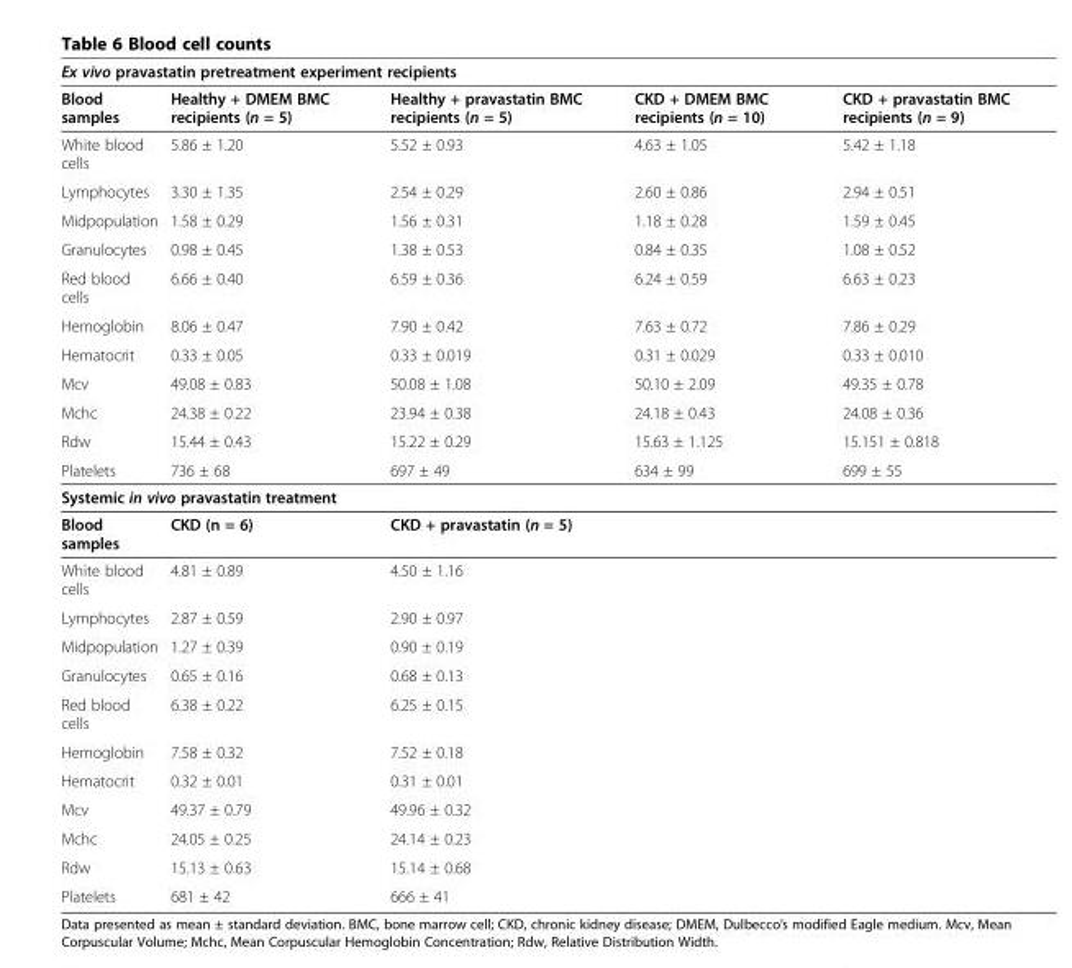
<table><tbody><tr><td colspan="5">Ex vivo pravastatin pretreatment experiment recipients</td></tr><tr><td>Blood samples</td><td>Healthy + DMEM BMC recipients (n = 5)</td><td>Healthy + pravastatin BMC recipients (n = 5)</td><td>CKD + DMEM BMC recipients (n = 10)</td><td>CKD + pravastatin BMC recipients (n = 9)</td></tr><tr><td>White blood cells</td><td>5.86 ± 1.20</td><td>5.52 ± 0.93</td><td>4.63 ± 1.05</td><td>5.42 ± 1.18</td></tr><tr><td>Lymphocytes</td><td>3.30 ± 1.35</td><td>2.54 ± 0.29</td><td>2.60 ± 0.86</td><td>2.94 ± 0.51</td></tr><tr><td>Midpopulation</td><td>1.58 ± 0.29</td><td>1.56 ± 0.31</td><td>1.18 ± 0.28</td><td>1.59 ± 0.45</td></tr><tr><td>Granulocytes</td><td>0.98 ± 0.45</td><td>1.38 ± 0.53</td><td>0.84 ± 0.35</td><td>1.08 ± 0.52</td></tr><tr><td>Red blood cells</td><td>6.66 ± 0.40</td><td>6.59 ± 0.36</td><td>6.24 ± 0.59</td><td>6.63 ± 0.23</td></tr><tr><td>Hemoglobin</td><td>8.06 ± 0.47</td><td>7.90 ± 0.42</td><td>7.63 ± 0.72</td><td>7.86 ± 0.29</td></tr><tr><td>Hematocrit</td><td>0.33 ± 0.05</td><td>0.33 ± 0.019</td><td>0.31 ± 0.029</td><td>0.33 ± 0.010</td></tr><tr><td>Mcv</td><td>49.08 ± 0.83</td><td>50.08 ± 1.08</td><td>50.10 ± 2.09</td><td>49.35 ± 0.78</td></tr><tr><td>Mchc</td><td>24.38 ± 0.22</td><td>23.94 ± 0.38</td><td>24.18 ± 0.43</td><td>24.08 ± 0.36</td></tr><tr><td>Rdw</td><td>15.44 ± 0.43</td><td>15.22 ± 0.29</td><td>15.63 ± 1.125</td><td>15.151 ± 0.818</td></tr><tr><td>Platelets</td><td>736 ± 68</td><td>697 ± 49</td><td>634 ± 99</td><td>699 ± 55</td></tr><tr><td colspan="5">Systemic in vivo pravastatin treatment</td></tr><tr><td>Blood samples</td><td>CKD (n = 6)</td><td>CKD + pravastatin (n = 5)</td><td></td><td></td></tr><tr><td>White blood cells</td><td>4.81 ± 0.89</td><td>4.50 ± 1.16</td><td></td><td></td></tr><tr><td>Lymphocytes</td><td>2.87 ± 0.59</td><td>2.90 ± 0.97</td><td></td><td></td></tr><tr><td>Midpopulation</td><td>1.27 ± 0.39</td><td>0.90 ± 0.19</td><td></td><td></td></tr><tr><td>Granulocytes</td><td>0.65 ± 0.16</td><td>0.68 ± 0.13</td><td></td><td></td></tr><tr><td>Red blood cells</td><td>6.38 ± 0.22</td><td>6.25 ± 0.15</td><td></td><td></td></tr><tr><td>Hemoglobin</td><td>7.58 ± 0.32</td><td>7.52 ± 0.18</td><td></td><td></td></tr><tr><td>Hematocrit</td><td>0.32 ± 0.01</td><td>0.31 ± 0.01</td><td></td><td></td></tr><tr><td>Mcv</td><td>49.37 ± 0.79</td><td>49.96 ± 0.32</td><td></td><td></td></tr><tr><td>Mchc</td><td>24.05 ± 0.25</td><td>24.14 ± 0.23</td><td></td><td></td></tr><tr><td>Rdw</td><td>15.13 ± 0.63</td><td>15.14 ± 0.68</td><td></td><td></td></tr><tr><td>Platelets</td><td>681 ± 42</td><td>666 ± 41</td><td></td><td></td></tr></tbody></table>